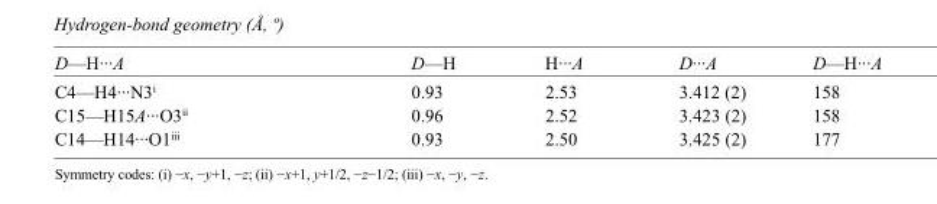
<table><tbody><tr><td>D—H···A</td><td>D—H</td><td>H···A</td><td>D···A</td><td>D—H···A</td></tr><tr><td>C4—H4···N3<sup>i</sup></td><td>0.93</td><td>2.53</td><td>3.412 (2)</td><td>158</td></tr><tr><td>C15—H15A···O3<sup>ii</sup></td><td>0.96</td><td>2.52</td><td>3.423 (2)</td><td>158</td></tr><tr><td>C14—H14···O1<sup>iii</sup></td><td>0.93</td><td>2.50</td><td>3.425 (2)</td><td>177</td></tr></tbody></table>